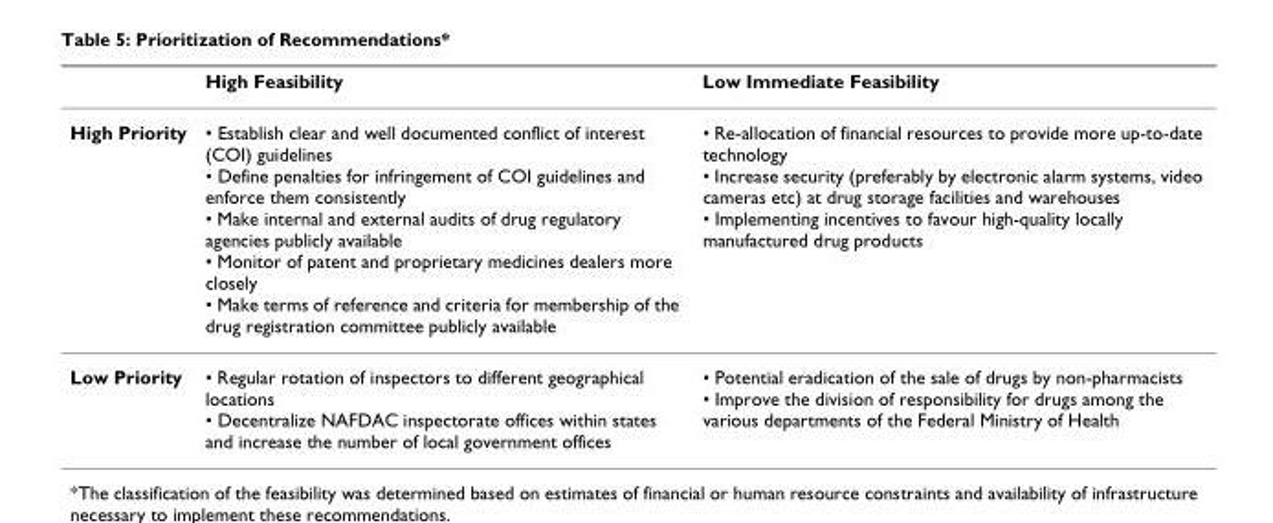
<table><thead><tr><td></td><td>High Feasibility</td><td>Low Immediate Feasibility</td></tr></thead><tbody><tr><td>High Priority</td><td>• Establish clear and well documented conflict of interest (COI) guidelines • Define penalties for infringement of COI guidelines and enforce them consistently • Make internal and external audits of drug regulatory agencies publicly available • Monitor of patent and proprietary medicines dealers more closely • Make terms of reference and criteria for membership of the drug registration committee publicly available</td><td>• Re-allocation of financial resources to provide more up-to-date technology • Increase security (preferably by electronic alarm systems, video cameras etc) at drug storage facilities and warehouses • Implementing incentives to favour high-quality locally manufactured drug products</td></tr><tr><td>Low Priority</td><td>• Regular rotation of inspectors to different geographical locations • Decentralize NAFDAC inspectorate offices within states and increase the number of local government offices</td><td>• Potential eradication of the sale of drugs by non-pharmacists • Improve the division of responsibility for drugs among the various departments of the Federal Ministry of Health</td></tr></tbody></table>